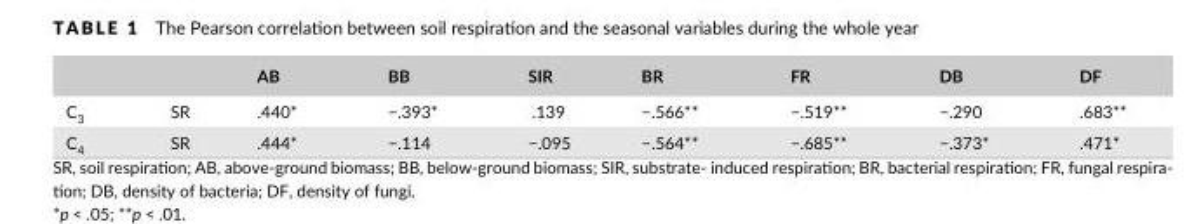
<table><thead><tr><td></td><td></td><td>AB</td><td>BB</td><td>SIR</td><td>BR</td><td>FR</td><td>DB</td><td>DF</td></tr></thead><tbody><tr><td>C<sub>3</sub></td><td>SR</td><td>.440*</td><td>−.393*</td><td>.139</td><td>−.566**</td><td>−.519**</td><td>−.290</td><td>.683**</td></tr><tr><td>C<sub>4</sub></td><td>SR</td><td>.444*</td><td>−.114</td><td>−.095</td><td>−.564**</td><td>−.685**</td><td>−.373*</td><td>.471*</td></tr></tbody></table>